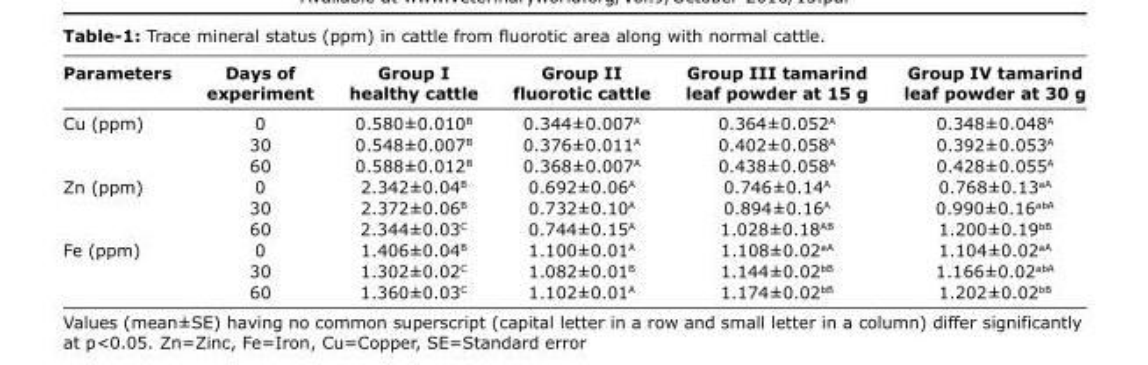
<table><thead><tr><td>Parameters</td><td>Days of experiment</td><td>Group I healthy cattle</td><td>Group II fluorotic cattle</td><td>Group III tamarind leaf powder at 15 g</td><td>Group IV tamarind leaf powder at 30 g</td></tr></thead><tbody><tr><td rowspan="3">Cu (ppm)</td><td>0</td><td>0.580±0.010<sup>B</sup></td><td>0.344±0.007<sup>A</sup></td><td>0.364±0.052<sup>A</sup></td><td>0.348±0.048<sup>A</sup></td></tr><tr><td>30</td><td>0.548±0.007<sup>B</sup></td><td>0.376±0.011<sup>A</sup></td><td>0.402±0.058<sup>A</sup></td><td>0.392±0.053<sup>A</sup></td></tr><tr><td>60</td><td>0.588±0.012<sup>B</sup></td><td>0.368±0.007<sup>A</sup></td><td>0.438±0.058<sup>A</sup></td><td>0.428±0.055<sup>A</sup></td></tr><tr><td rowspan="3">Zn (ppm)</td><td>0</td><td>2.342±0.04<sup>B</sup></td><td>0.692±0.06<sup>A</sup></td><td>0.746±0.14<sup>A</sup></td><td>0.768±0.13<sup>aA</sup></td></tr><tr><td>30</td><td>2.372±0.06<sup>B</sup></td><td>0.732±0.10<sup>A</sup></td><td>0.894±0.16<sup>A</sup></td><td>0.990±0.16<sup>abA</sup></td></tr><tr><td>60</td><td>2.344±0.03<sup>C</sup></td><td>0.744±0.15<sup>A</sup></td><td>1.028±0.18<sup>AB</sup></td><td>1.200±0.19<sup>bB</sup></td></tr><tr><td rowspan="3">Fe (ppm)</td><td>0</td><td>1.406±0.04<sup>B</sup></td><td>1.100±0.01<sup>A</sup></td><td>1.108±0.02<sup>aA</sup></td><td>1.104±0.02<sup>aA</sup></td></tr><tr><td>30</td><td>1.302±0.02<sup>C</sup></td><td>1.082±0.01<sup>B</sup></td><td>1.144±0.02<sup>bB</sup></td><td>1.166±0.02<sup>abA</sup></td></tr><tr><td>60</td><td>1.360±0.03<sup>C</sup></td><td>1.102±0.01<sup>A</sup></td><td>1.174±0.02<sup>bB</sup></td><td>1.202±0.02<sup>bB</sup></td></tr></tbody></table>